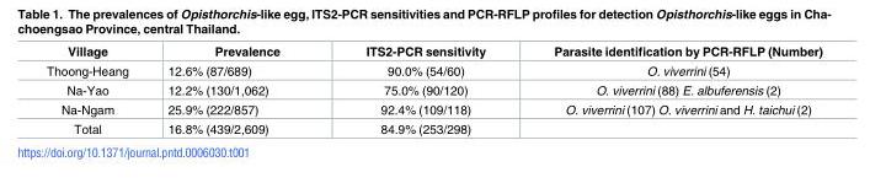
<table><thead><tr><td>Village</td><td>Prevalence</td><td>ITS2-PCR sensitivity</td><td>Parasite identification by PCR-RFLP (Number)</td></tr></thead><tbody><tr><td>Thoong-Heang</td><td>12.6% (87/689)</td><td>90.0% (54/60)</td><td>O. viverrini (54)</td></tr><tr><td>Na-Yao</td><td>12.2% (130/1,062)</td><td>75.0% (90/120)</td><td>O. viverrini (88) E. albuferensis (2)</td></tr><tr><td>Na-Ngam</td><td>25.9% (222/857)</td><td>92.4% (109/118)</td><td>O. viverrini (107) O. viverrini and H. taichui (2)</td></tr><tr><td>Total</td><td>16.8% (439/2,609)</td><td>84.9% (253/298)</td><td></td></tr></tbody></table>